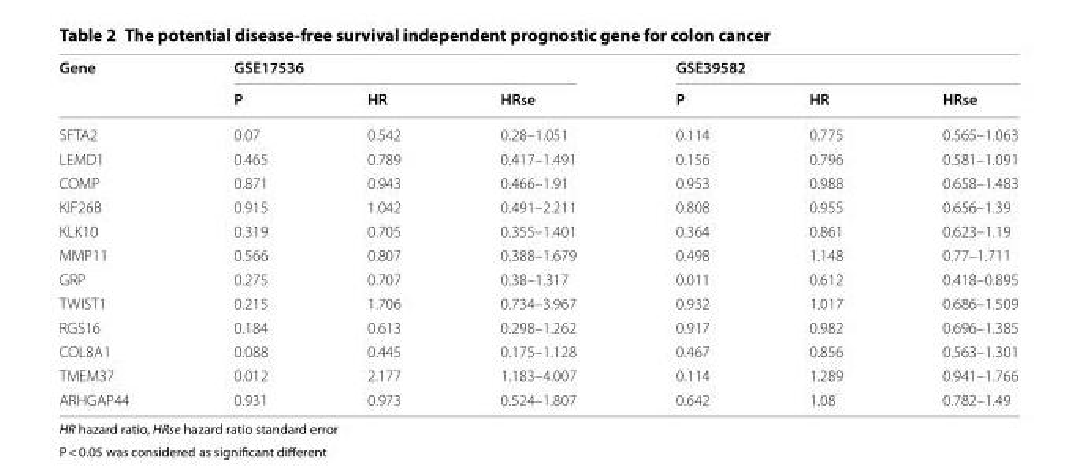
<table><thead><tr><td rowspan="2">Gene</td><td colspan="3">GSE17536</td><td colspan="3">GSE39582</td></tr><tr><td>P</td><td>HR</td><td>HRse</td><td>P</td><td>HR</td><td>HRse</td></tr></thead><tbody><tr><td>SFTA2</td><td>0.07</td><td>0.542</td><td>0.28–1.051</td><td>0.114</td><td>0.775</td><td>0.565–1.063</td></tr><tr><td>LEMD1</td><td>0.465</td><td>0.789</td><td>0.417–1.491</td><td>0.156</td><td>0.796</td><td>0.581–1.091</td></tr><tr><td>COMP</td><td>0.871</td><td>0.943</td><td>0.466–1.91</td><td>0.953</td><td>0.988</td><td>0.658–1.483</td></tr><tr><td>KIF26B</td><td>0.915</td><td>1.042</td><td>0.491–2.211</td><td>0.808</td><td>0.955</td><td>0.656–1.39</td></tr><tr><td>KLK10</td><td>0.319</td><td>0.705</td><td>0.355–1.401</td><td>0.364</td><td>0.861</td><td>0.623–1.19</td></tr><tr><td>MMP11</td><td>0.566</td><td>0.807</td><td>0.388–1.679</td><td>0.498</td><td>1.148</td><td>0.77–1.711</td></tr><tr><td>GRP</td><td>0.275</td><td>0.707</td><td>0.38–1.317</td><td>0.011</td><td>0.612</td><td>0.418–0.895</td></tr><tr><td>TWIST1</td><td>0.215</td><td>1.706</td><td>0.734–3.967</td><td>0.932</td><td>1.017</td><td>0.686–1.509</td></tr><tr><td>RGS16</td><td>0.184</td><td>0.613</td><td>0.298–1.262</td><td>0.917</td><td>0.982</td><td>0.696–1.385</td></tr><tr><td>COL8A1</td><td>0.088</td><td>0.445</td><td>0.175–1.128</td><td>0.467</td><td>0.856</td><td>0.563–1.301</td></tr><tr><td>TMEM37</td><td>0.012</td><td>2.177</td><td>1.183–4.007</td><td>0.114</td><td>1.289</td><td>0.941–1.766</td></tr><tr><td>ARHGAP44</td><td>0.931</td><td>0.973</td><td>0.524–1.807</td><td>0.642</td><td>1.08</td><td>0.782–1.49</td></tr></tbody></table>